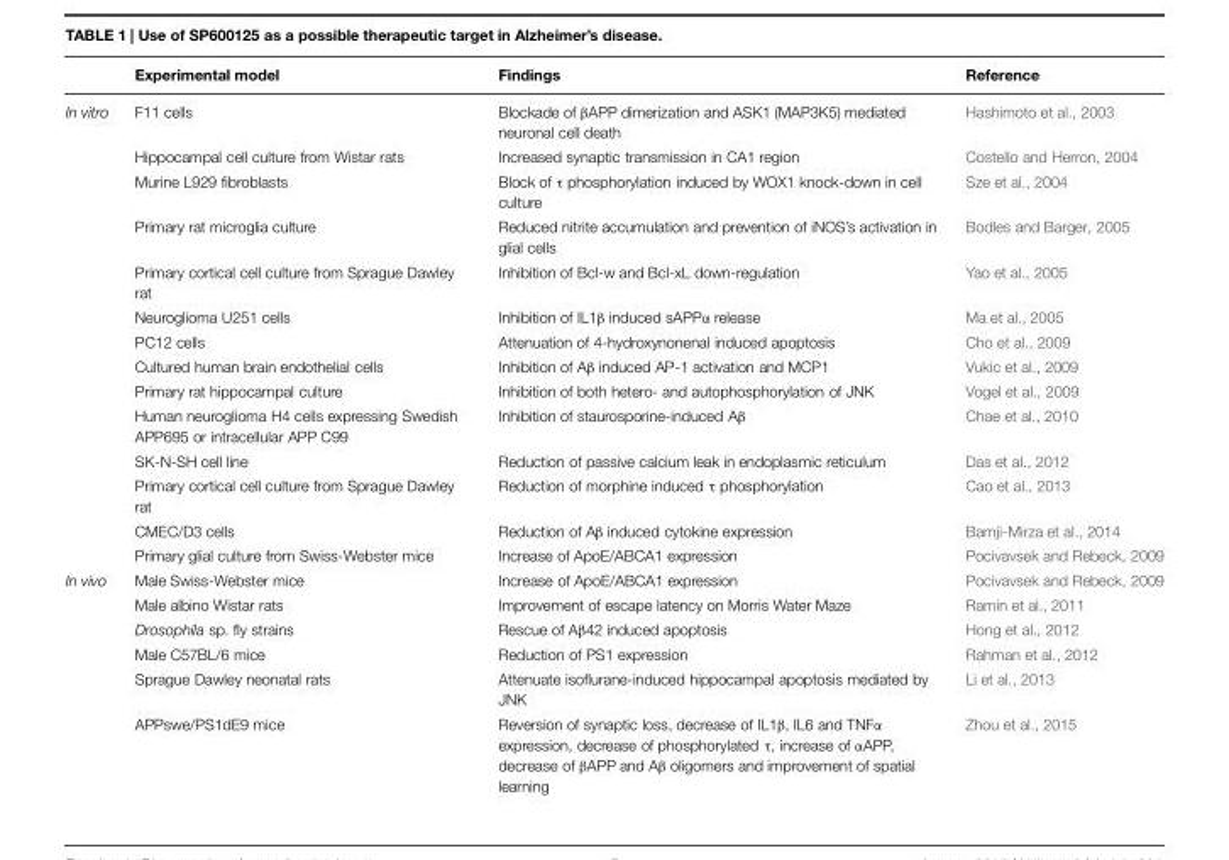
<table><thead><tr><td></td><td>Experimental model</td><td>Findings</td><td>Reference</td></tr></thead><tbody><tr><td rowspan="14">In vitro</td><td>F11 cells</td><td>Blockade of βAPP dimerization and ASK1 (MAP3K5) mediated neuronal cell death</td><td>Hashimoto et al., 2003</td></tr><tr><td>Hippocampal cell culture from Wistar rats</td><td>Increased synaptic transmission in CA1 region</td><td>Costello and Herron, 2004</td></tr><tr><td>Murine L929 fibroblasts</td><td>Block of τ phosphorylation induced by WOX1 knock-down in cell culture</td><td>Sze et al., 2004</td></tr><tr><td>Primary rat microglia culture</td><td>Reduced nitrite accumulation and prevention of iNOS’s activation in glial cells</td><td>Bodles and Barger, 2005</td></tr><tr><td>Primary cortical cell culture from Sprague Dawley rat</td><td>Inhibition of Bcl-w and Bcl-xL down-regulation</td><td>Yao et al., 2005</td></tr><tr><td>Neuroglioma U251 cells</td><td>Inhibition of IL1β induced sAPPα release</td><td>Ma et al., 2005</td></tr><tr><td>PC12 cells</td><td>Attenuation of 4-hydroxynonenal induced apoptosis</td><td>Cho et al., 2009</td></tr><tr><td>Cultured human brain endothelial cells</td><td>Inhibition of Aβ induced AP-1 activation and MCP1</td><td>Vukic et al., 2009</td></tr><tr><td>Primary rat hippocampal culture</td><td>Inhibition of both hetero- and autophosphorylation of JNK</td><td>Vogel et al., 2009</td></tr><tr><td>Human neuroglioma H4 cells expressing Swedish APP695 or intracellular APP C99</td><td>Inhibition of staurosporine-induced Aβ</td><td>Chae et al., 2010</td></tr><tr><td>SK-N-SH cell line</td><td>Reduction of passive calcium leak in endoplasmic reticulum</td><td>Das et al., 2012</td></tr><tr><td>Primary cortical cell culture from Sprague Dawley rat</td><td>Reduction of morphine induced τ phosphorylation</td><td>Cao et al., 2013</td></tr><tr><td>CMEC/D3 cells</td><td>Reduction of Aβ induced cytokine expression</td><td>Bamji-Mirza et al., 2014</td></tr><tr><td>Primary glial culture from Swiss-Webster mice</td><td>Increase of ApoE/ABCA1 expression</td><td>Pocivavsek and Rebeck, 2009</td></tr><tr><td rowspan="6">In vivo</td><td>Male Swiss-Webster mice</td><td>Increase of ApoE/ABCA1 expression</td><td>Pocivavsek and Rebeck, 2009</td></tr><tr><td>Male albino Wistar rats</td><td>Improvement of escape latency on Morris Water Maze</td><td>Ramin et al., 2011</td></tr><tr><td>Drosophila sp. fly strains</td><td>Rescue of Aβ42 induced apoptosis</td><td>Hong et al., 2012</td></tr><tr><td>Male C57BL/6 mice</td><td>Reduction of PS1 expression</td><td>Rahman et al., 2012</td></tr><tr><td>Sprague Dawley neonatal rats</td><td>Attenuate isoflurane-induced hippocampal apoptosis mediated by JNK</td><td>Li et al., 2013</td></tr><tr><td>APPswe/PS1dE9 mice</td><td>Reversion of synaptic loss, decrease of IL1β, IL6 and TNFα expression, decrease of phosphorylated τ, increase of αAPP, decrease of βAPP and Aβ oligomers and improvement of spatial learning</td><td>Zhou et al., 2015</td></tr></tbody></table>